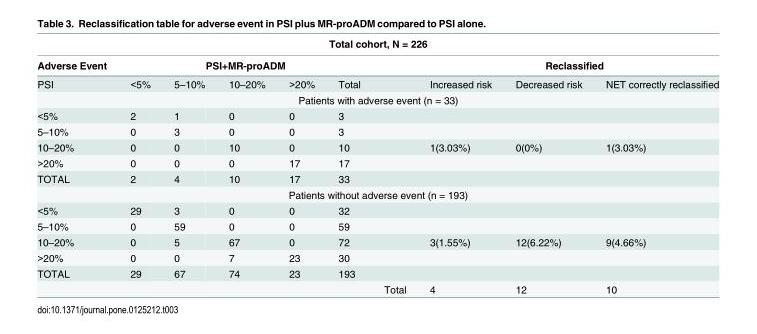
<table><thead><tr><td colspan="10">Total cohort, N = 226</td></tr><tr><td rowspan="2">Adverse Event PSI</td><td colspan="5">PSI+MR-proADM</td><td rowspan="2"></td><td colspan="3">Reclassified</td></tr><tr><td>&lt;5%</td><td>5–10%</td><td>10–20%</td><td>&gt;20%</td><td>Total</td><td>Increased risk</td><td>Decreased risk</td><td>NET correctly reclassified</td></tr></thead><tbody><tr><td colspan="10">Patients with adverse event (n = 33)</td></tr><tr><td>&lt;5%</td><td>2</td><td>1</td><td>0</td><td>0</td><td>3</td><td></td><td></td><td></td><td></td></tr><tr><td>5–10%</td><td>0</td><td>3</td><td>0</td><td>0</td><td>3</td><td></td><td></td><td></td><td></td></tr><tr><td>10–20%</td><td>0</td><td>0</td><td>10</td><td>0</td><td>10</td><td></td><td>1(3.03%)</td><td>0(0%)</td><td>1(3.03%)</td></tr><tr><td>&gt;20%</td><td>0</td><td>0</td><td>0</td><td>17</td><td>17</td><td></td><td></td><td></td><td></td></tr><tr><td>TOTAL</td><td>2</td><td>4</td><td>10</td><td>17</td><td>33</td><td></td><td></td><td></td><td></td></tr><tr><td colspan="10">Patients without adverse event (n = 193)</td></tr><tr><td>&lt;5%</td><td>29</td><td>3</td><td>0</td><td>0</td><td>32</td><td></td><td></td><td></td><td></td></tr><tr><td>5–10%</td><td>0</td><td>59</td><td>0</td><td>0</td><td>59</td><td></td><td></td><td></td><td></td></tr><tr><td>10–20%</td><td>0</td><td>5</td><td>67</td><td>0</td><td>72</td><td></td><td>3(1.55%)</td><td>12(6.22%)</td><td>9(4.66%)</td></tr><tr><td>&gt;20%</td><td>0</td><td>0</td><td>7</td><td>23</td><td>30</td><td></td><td></td><td></td><td></td></tr><tr><td rowspan="2">TOTAL</td><td>29</td><td>67</td><td>74</td><td>23</td><td>193</td><td></td><td></td><td></td><td></td></tr><tr><td></td><td></td><td></td><td></td><td></td><td>Total</td><td>4</td><td>12</td><td>10</td></tr></tbody></table>